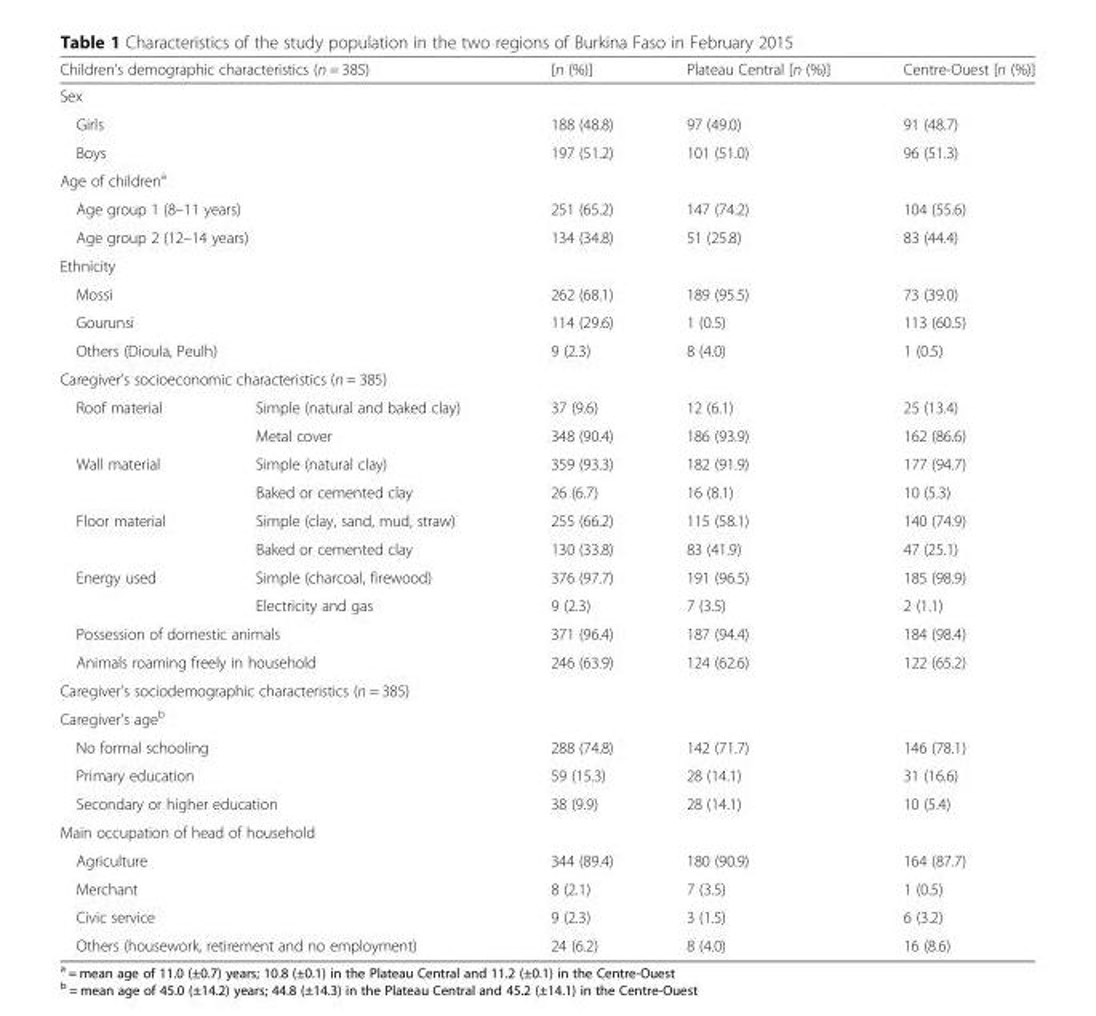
<table><thead><tr><td colspan="2">Children’s demographic characteristics (n = 385)</td><td>[n (%)]</td><td>Plateau Central [n (%)]</td><td>Centre-Ouest [n (%)]</td></tr></thead><tbody><tr><td colspan="5">Sex</td></tr><tr><td colspan="2">Girls</td><td>188 (48.8)</td><td>97 (49.0)</td><td>91 (48.7)</td></tr><tr><td colspan="2">Boys</td><td>197 (51.2)</td><td>101 (51.0)</td><td>96 (51.3)</td></tr><tr><td colspan="5">Age of children<sup>a</sup></td></tr><tr><td colspan="2">Age group 1 (8–11 years)</td><td>251 (65.2)</td><td>147 (74.2)</td><td>104 (55.6)</td></tr><tr><td colspan="2">Age group 2 (12–14 years)</td><td>134 (34.8)</td><td>51 (25.8)</td><td>83 (44.4)</td></tr><tr><td colspan="5">Ethnicity</td></tr><tr><td colspan="2">Mossi</td><td>262 (68.1)</td><td>189 (95.5)</td><td>73 (39.0)</td></tr><tr><td colspan="2">Gourunsi</td><td>114 (29.6)</td><td>1 (0.5)</td><td>113 (60.5)</td></tr><tr><td colspan="2">Others (Dioula, Peulh)</td><td>9 (2.3)</td><td>8 (4.0)</td><td>1 (0.5)</td></tr><tr><td colspan="5">Caregiver’s socioeconomic characteristics (n = 385)</td></tr><tr><td rowspan="2">Roof material</td><td>Simple (natural and baked clay)</td><td>37 (9.6)</td><td>12 (6.1)</td><td>25 (13.4)</td></tr><tr><td>Metal cover</td><td>348 (90.4)</td><td>186 (93.9)</td><td>162 (86.6)</td></tr><tr><td rowspan="2">Wall material</td><td>Simple (natural clay)</td><td>359 (93.3)</td><td>182 (91.9)</td><td>177 (94.7)</td></tr><tr><td>Baked or cemented clay</td><td>26 (6.7)</td><td>16 (8.1)</td><td>10 (5.3)</td></tr><tr><td rowspan="2">Floor material</td><td>Simple (clay, sand, mud, straw)</td><td>255 (66.2)</td><td>115 (58.1)</td><td>140 (74.9)</td></tr><tr><td>Baked or cemented clay</td><td>130 (33.8)</td><td>83 (41.9)</td><td>47 (25.1)</td></tr><tr><td rowspan="2">Energy used</td><td>Simple (charcoal, firewood)</td><td>376 (97.7)</td><td>191 (96.5)</td><td>185 (98.9)</td></tr><tr><td>Electricity and gas</td><td>9 (2.3)</td><td>7 (3.5)</td><td>2 (1.1)</td></tr><tr><td colspan="2">Possession of domestic animals</td><td>371 (96.4)</td><td>187 (94.4)</td><td>184 (98.4)</td></tr><tr><td colspan="2">Animals roaming freely in household</td><td>246 (63.9)</td><td>124 (62.6)</td><td>122 (65.2)</td></tr><tr><td colspan="5">Caregiver’s sociodemographic characteristics (n = 385)</td></tr><tr><td colspan="5">Caregiver’s age<sup>b</sup></td></tr><tr><td colspan="2">No formal schooling</td><td>288 (74.8)</td><td>142 (71.7)</td><td>146 (78.1)</td></tr><tr><td colspan="2">Primary education</td><td>59 (15.3)</td><td>28 (14.1)</td><td>31 (16.6)</td></tr><tr><td colspan="2">Secondary or higher education</td><td>38 (9.9)</td><td>28 (14.1)</td><td>10 (5.4)</td></tr><tr><td colspan="5">Main occupation of head of household</td></tr><tr><td colspan="2">Agriculture</td><td>344 (89.4)</td><td>180 (90.9)</td><td>164 (87.7)</td></tr><tr><td colspan="2">Merchant</td><td>8 (2.1)</td><td>7 (3.5)</td><td>1 (0.5)</td></tr><tr><td colspan="2">Civic service</td><td>9 (2.3)</td><td>3 (1.5)</td><td>6 (3.2)</td></tr><tr><td colspan="2">Others (housework, retirement and no employment)</td><td>24 (6.2)</td><td>8 (4.0)</td><td>16 (8.6)</td></tr></tbody></table>